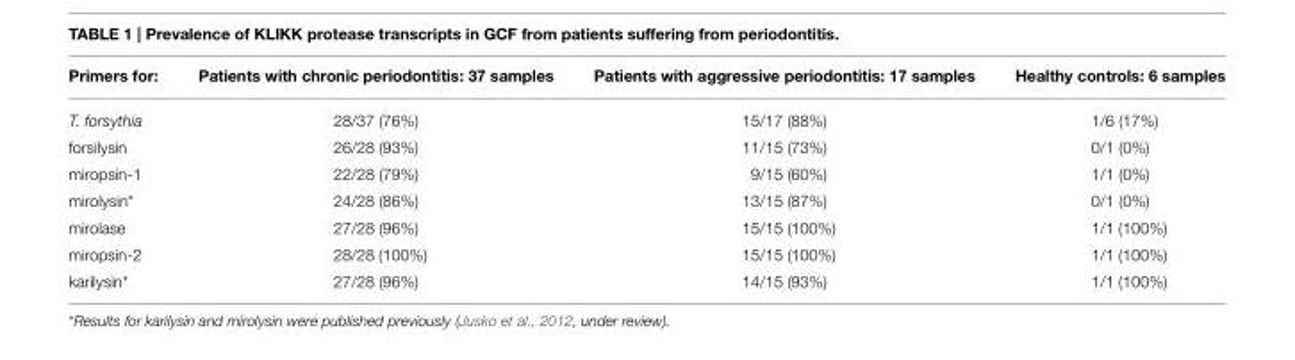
<table><thead><tr><td>Primers for:</td><td>Patients with chronic periodontitis: 37 samples</td><td>Patients with aggressive periodontitis: 17 samples</td><td>Healthy controls: 6 samples</td></tr></thead><tbody><tr><td>T. forsythia</td><td>28/37 (76%)</td><td>15/17 (88%)</td><td>1/6 (17%)</td></tr><tr><td>forsilysin</td><td>26/28 (93%)</td><td>11/15 (73%)</td><td>0/1 (0%)</td></tr><tr><td>miropsin-1</td><td>22/28 (79%)</td><td>9/15 (60%)</td><td>1/1 (0%)</td></tr><tr><td>mirolysin*</td><td>24/28 (86%)</td><td>13/15 (87%)</td><td>0/1 (0%)</td></tr><tr><td>mirolase</td><td>27/28 (96%)</td><td>15/15 (100%)</td><td>1/1 (100%)</td></tr><tr><td>miropsin-2</td><td>28/28 (100%)</td><td>15/15 (100%)</td><td>1/1 (100%)</td></tr><tr><td>karilysin*</td><td>27/28 (96%)</td><td>14/15 (93%)</td><td>1/1 (100%)</td></tr></tbody></table>